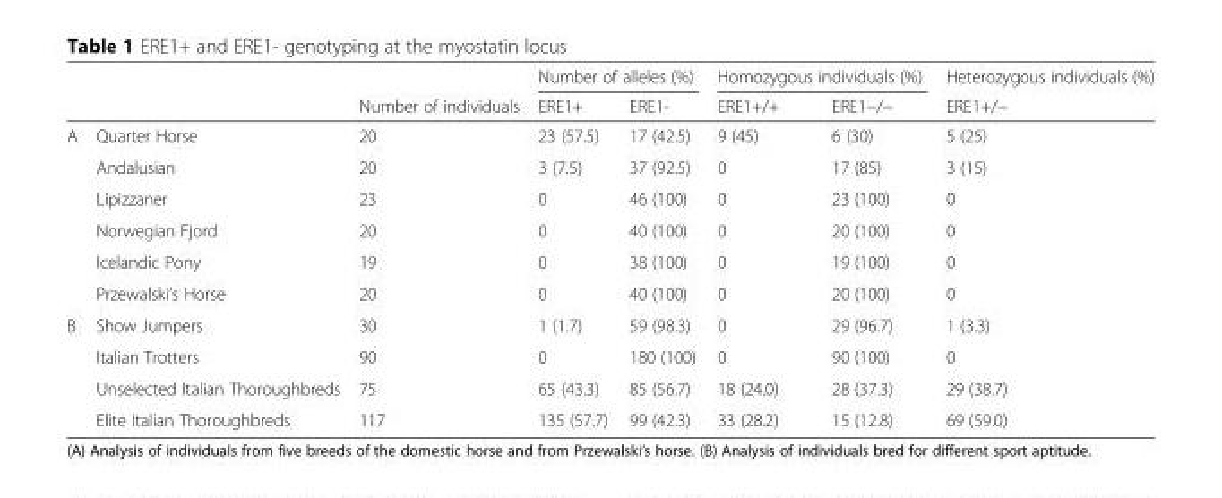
<table><thead><tr><td rowspan="2"></td><td rowspan="2"></td><td rowspan="2">Number of individuals</td><td colspan="2">Number of alleles (%)</td><td colspan="2">Homozygous individuals (%)</td><td rowspan="2">Heterozygous individuals (%) ERE1+/−</td></tr><tr><td>ERE1+</td><td>ERE1-</td><td>ERE1+/+</td><td>ERE1−/−</td></tr></thead><tbody><tr><td rowspan="6">A</td><td>Quarter Horse</td><td>20</td><td>23 (57.5)</td><td>17 (42.5)</td><td>9 (45)</td><td>6 (30)</td><td>5 (25)</td></tr><tr><td>Andalusian</td><td>20</td><td>3 (7.5)</td><td>37 (92.5)</td><td>0</td><td>17 (85)</td><td>3 (15)</td></tr><tr><td>Lipizzaner</td><td>23</td><td>0</td><td>46 (100)</td><td>0</td><td>23 (100)</td><td>0</td></tr><tr><td>Norwegian Fjord</td><td>20</td><td>0</td><td>40 (100)</td><td>0</td><td>20 (100)</td><td>0</td></tr><tr><td>Icelandic Pony</td><td>19</td><td>0</td><td>38 (100)</td><td>0</td><td>19 (100)</td><td>0</td></tr><tr><td>Przewalski’s Horse</td><td>20</td><td>0</td><td>40 (100)</td><td>0</td><td>20 (100)</td><td>0</td></tr><tr><td rowspan="4">B</td><td>Show Jumpers</td><td>30</td><td>1 (1.7)</td><td>59 (98.3)</td><td>0</td><td>29 (96.7)</td><td>1 (3.3)</td></tr><tr><td>Italian Trotters</td><td>90</td><td>0</td><td>180 (100)</td><td>0</td><td>90 (100)</td><td>0</td></tr><tr><td>Unselected Italian Thoroughbreds</td><td>75</td><td>65 (43.3)</td><td>85 (56.7)</td><td>18 (24.0)</td><td>28 (37.3)</td><td>29 (38.7)</td></tr><tr><td>Elite Italian Thoroughbreds</td><td>117</td><td>135 (57.7)</td><td>99 (42.3)</td><td>33 (28.2)</td><td>15 (12.8)</td><td>69 (59.0)</td></tr></tbody></table>